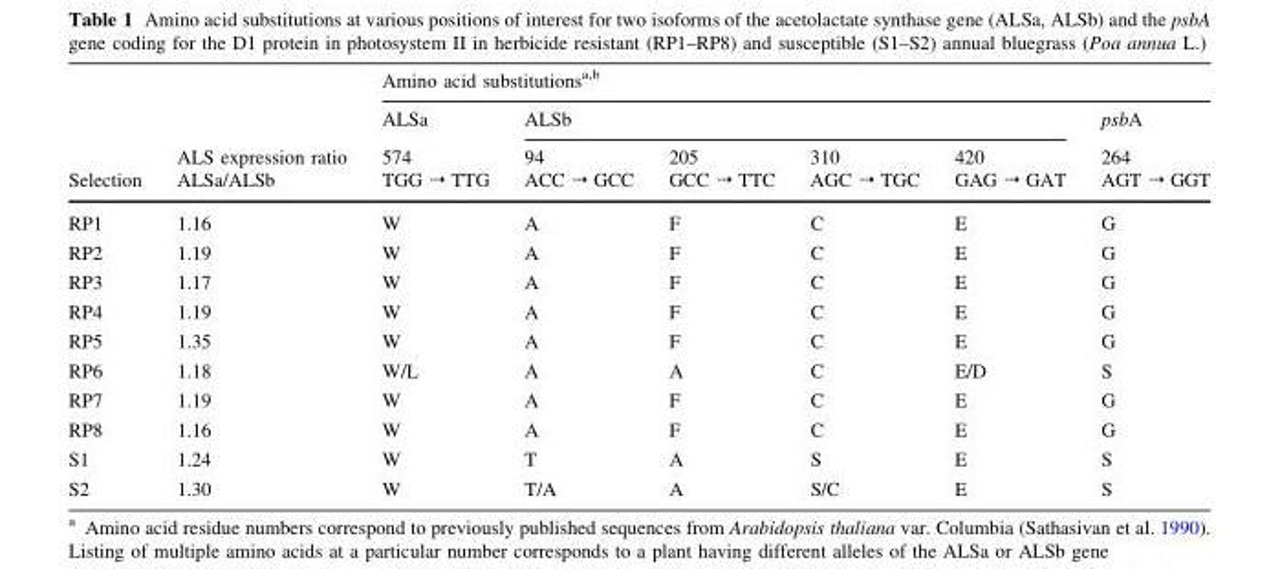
<table><thead><tr><td rowspan="4">Selection</td><td rowspan="4">ALS expression ratio ALSa/ALSb</td><td colspan="6">Amino acid substitutions<sup>a,b</sup></td></tr><tr><td rowspan="3">ALSa 574 TGG ⇢ TTG</td><td colspan="4">ALSb</td><td rowspan="3">psbA 264 AGT ⇢ GGT</td></tr><tr><td rowspan="2">94 ACC ⇢ GCC</td><td rowspan="2">205 GCC ⇢ TTC</td><td rowspan="2">310 AGC ⇢ TGC</td><td rowspan="2">420 GAG ⇢ GAT</td></tr><tr></tr></thead><tbody><tr><td>RP1</td><td>1.16</td><td>W</td><td>A</td><td>F</td><td>C</td><td>E</td><td>G</td></tr><tr><td>RP2</td><td>1.19</td><td>W</td><td>A</td><td>F</td><td>C</td><td>E</td><td>G</td></tr><tr><td>RP3</td><td>1.17</td><td>W</td><td>A</td><td>F</td><td>C</td><td>E</td><td>G</td></tr><tr><td>RP4</td><td>1.19</td><td>W</td><td>A</td><td>F</td><td>C</td><td>E</td><td>G</td></tr><tr><td>RP5</td><td>1.35</td><td>W</td><td>A</td><td>F</td><td>C</td><td>E</td><td>G</td></tr><tr><td>RP6</td><td>1.18</td><td>W/L</td><td>A</td><td>A</td><td>C</td><td>E/D</td><td>S</td></tr><tr><td>RP7</td><td>1.19</td><td>W</td><td>A</td><td>F</td><td>C</td><td>E</td><td>G</td></tr><tr><td>RP8</td><td>1.16</td><td>W</td><td>A</td><td>F</td><td>C</td><td>E</td><td>G</td></tr><tr><td>S1</td><td>1.24</td><td>W</td><td>T</td><td>A</td><td>S</td><td>E</td><td>S</td></tr><tr><td>S2</td><td>1.30</td><td>W</td><td>T/A</td><td>A</td><td>S/C</td><td>E</td><td>S</td></tr></tbody></table>